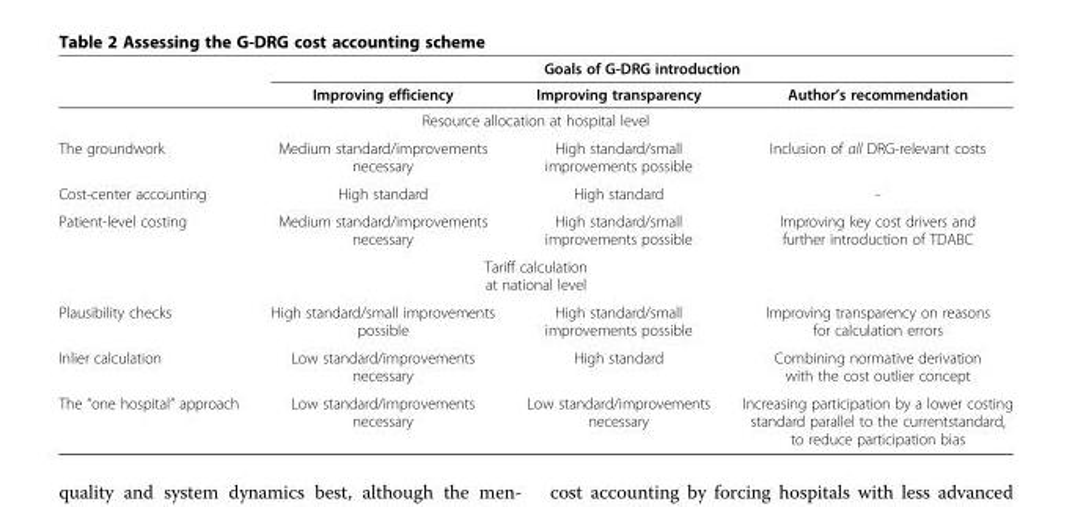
<table><thead><tr><td rowspan="2"></td><td colspan="3">Goals of G-DRG introduction</td></tr><tr><td>Improving efficiency</td><td>Improving transparency</td><td>Author’s recommendation</td></tr></thead><tbody><tr><td colspan="4">Resource allocation at hospital level</td></tr><tr><td>The groundwork</td><td>Medium standard/improvements necessary</td><td>High standard/small improvements possible</td><td>Inclusion of all DRG-relevant costs</td></tr><tr><td>Cost-center accounting</td><td>High standard</td><td>High standard</td><td>-</td></tr><tr><td>Patient-level costing</td><td>Medium standard/improvements necessary</td><td>High standard/small improvements possible</td><td>Improving key cost drivers and further introduction of TDABC</td></tr><tr><td colspan="4">Tariff calculation at national level</td></tr><tr><td>Plausibility checks</td><td>High standard/small improvements possible</td><td>High standard/small improvements possible</td><td>Improving transparency on reasons for calculation errors</td></tr><tr><td>Inlier calculation</td><td>Low standard/improvements necessary</td><td>High standard</td><td>Combining normative derivation with the cost outlier concept</td></tr><tr><td>The “one hospital” approach</td><td>Low standard/improvements necessary</td><td>Low standard/improvements necessary</td><td>Increasing participation by a lower costing standard parallel to the currentstandard, to reduce participation bias</td></tr></tbody></table>